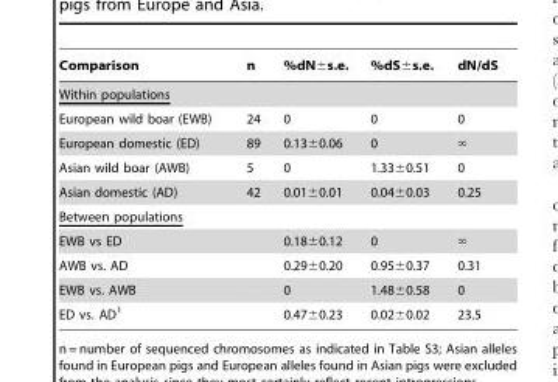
<table><thead><tr><td>Comparison</td><td>n</td><td>%dN±s.e.</td><td>%dS±s.e.</td><td>dN/dS</td></tr></thead><tbody><tr><td colspan="5">Within populations</td></tr><tr><td>European wild boar (EWB)</td><td>24</td><td>0</td><td>0</td><td>0</td></tr><tr><td>European domestic (ED)</td><td>89</td><td>0.13±0.06</td><td>0</td><td>‘</td></tr><tr><td>Asian wild boar (AWB)</td><td>5</td><td>0</td><td>1.33±0.51</td><td>0</td></tr><tr><td>Asian domestic (AD)</td><td>42</td><td>0.01±0.01</td><td>0.04±0.03</td><td>0.25</td></tr><tr><td colspan="5">Between populations</td></tr><tr><td>EWB vs ED</td><td></td><td>0.18±0.12</td><td>0</td><td>‘</td></tr><tr><td>AWB vs. AD</td><td></td><td>0.29±0.20</td><td>0.95±0.37</td><td>0.31</td></tr><tr><td>EWB vs. AWB</td><td></td><td>0</td><td>1.48±0.58</td><td>0</td></tr><tr><td>ED vs. AD<sup>1</sup></td><td></td><td>0.47±0.23</td><td>0.02±0.02</td><td>23.5</td></tr></tbody></table>